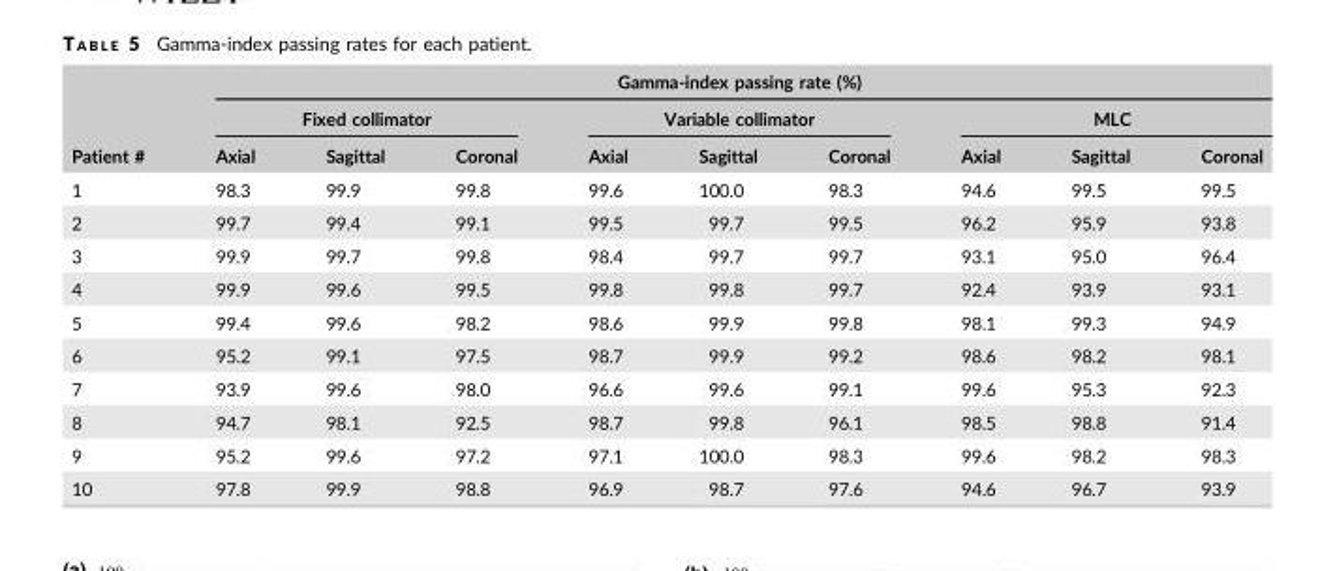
<table><thead><tr><td rowspan="3">Patient #</td><td colspan="9">Gamma-index passing rate (%)</td></tr><tr><td colspan="3">Fixed collimator</td><td colspan="3">Variable collimator</td><td colspan="3">MLC</td></tr><tr><td>Axial</td><td>Sagittal</td><td>Coronal</td><td>Axial</td><td>Sagittal</td><td>Coronal</td><td>Axial</td><td>Sagittal</td><td>Coronal</td></tr></thead><tbody><tr><td>1</td><td>98.3</td><td>99.9</td><td>99.8</td><td>99.6</td><td>100.0</td><td>98.3</td><td>94.6</td><td>99.5</td><td>99.5</td></tr><tr><td>2</td><td>99.7</td><td>99.4</td><td>99.1</td><td>99.5</td><td>99.7</td><td>99.5</td><td>96.2</td><td>95.9</td><td>93.8</td></tr><tr><td>3</td><td>99.9</td><td>99.7</td><td>99.8</td><td>98.4</td><td>99.7</td><td>99.7</td><td>93.1</td><td>95.0</td><td>96.4</td></tr><tr><td>4</td><td>99.9</td><td>99.6</td><td>99.5</td><td>99.8</td><td>99.8</td><td>99.7</td><td>92.4</td><td>93.9</td><td>93.1</td></tr><tr><td>5</td><td>99.4</td><td>99.6</td><td>98.2</td><td>98.6</td><td>99.9</td><td>99.8</td><td>98.1</td><td>99.3</td><td>94.9</td></tr><tr><td>6</td><td>95.2</td><td>99.1</td><td>97.5</td><td>98.7</td><td>99.9</td><td>99.2</td><td>98.6</td><td>98.2</td><td>98.1</td></tr><tr><td>7</td><td>93.9</td><td>99.6</td><td>98.0</td><td>96.6</td><td>99.6</td><td>99.1</td><td>99.6</td><td>95.3</td><td>92.3</td></tr><tr><td>8</td><td>94.7</td><td>98.1</td><td>92.5</td><td>98.7</td><td>99.8</td><td>96.1</td><td>98.5</td><td>98.8</td><td>91.4</td></tr><tr><td>9</td><td>95.2</td><td>99.6</td><td>97.2</td><td>97.1</td><td>100.0</td><td>98.3</td><td>99.6</td><td>98.2</td><td>98.3</td></tr><tr><td>10</td><td>97.8</td><td>99.9</td><td>98.8</td><td>96.9</td><td>98.7</td><td>97.6</td><td>94.6</td><td>96.7</td><td>93.9</td></tr></tbody></table>